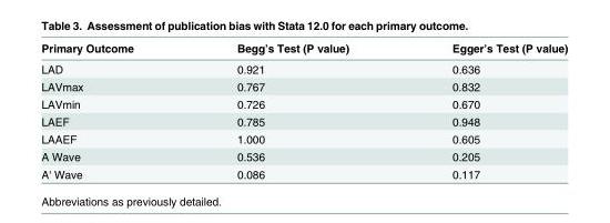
<table><thead><tr><td>Primary Outcome</td><td>Begg’s Test (P value)</td><td>Egger’s Test (P value)</td></tr></thead><tbody><tr><td>LAD</td><td>0.921</td><td>0.636</td></tr><tr><td>LAVmax</td><td>0.767</td><td>0.832</td></tr><tr><td>LAVmin</td><td>0.726</td><td>0.670</td></tr><tr><td>LAEF</td><td>0.785</td><td>0.948</td></tr><tr><td>LAAEF</td><td>1.000</td><td>0.605</td></tr><tr><td>A Wave</td><td>0.536</td><td>0.205</td></tr><tr><td>A&#x27; Wave</td><td>0.086</td><td>0.117</td></tr></tbody></table>